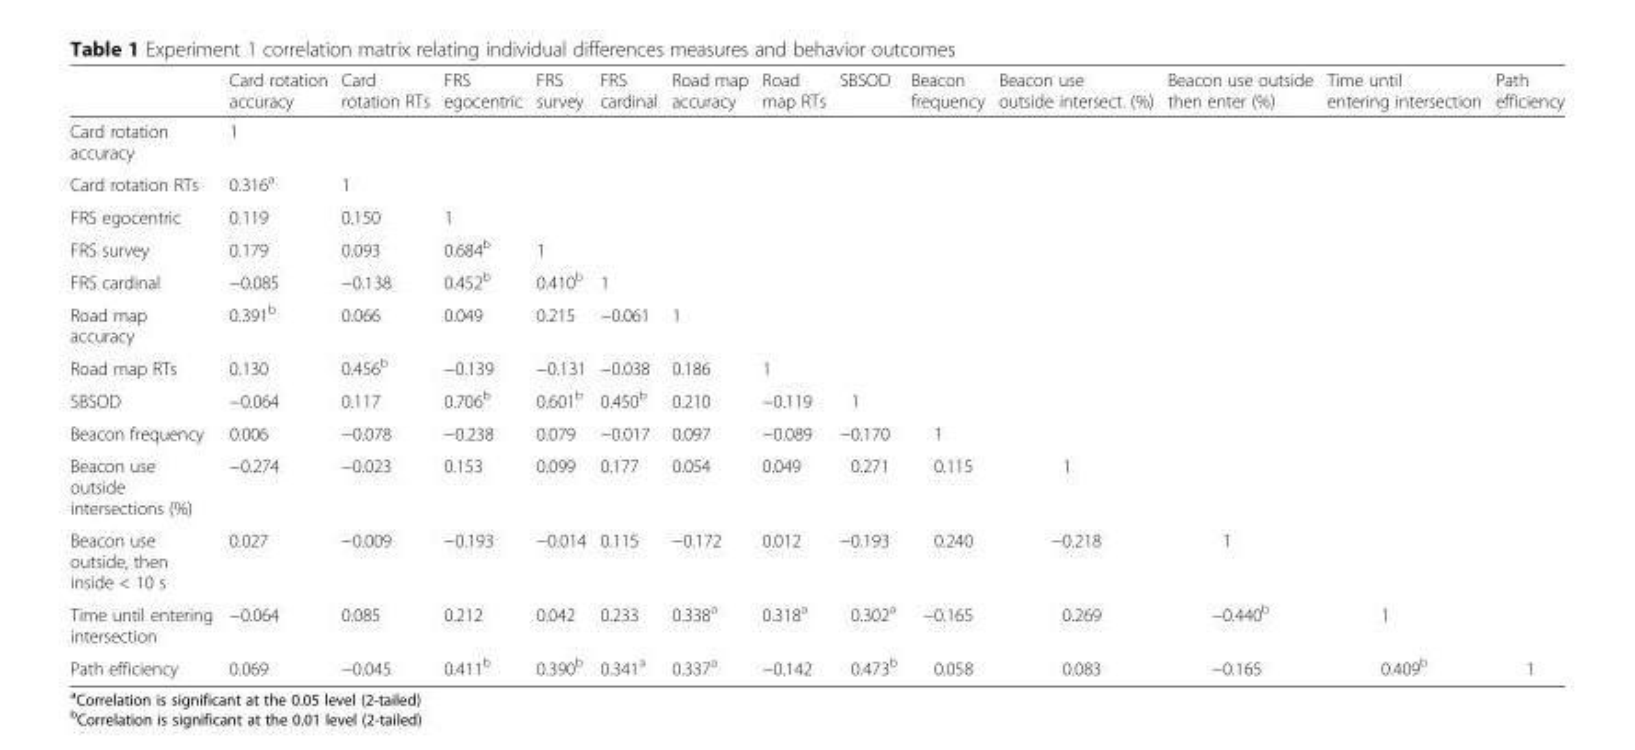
<table><thead><tr><td></td><td>Card rotation accuracy</td><td>Card rotation RTs</td><td>FRS egocentric</td><td>FRS survey</td><td>FRS cardinal</td><td>Road map accuracy</td><td>Road map RTs</td><td>SBSOD</td><td>Beacon frequency</td><td>Beacon use outside intersect. (%)</td><td>Beacon use outside then enter (%)</td><td>Time until entering intersection</td><td>Path efficiency</td></tr></thead><tbody><tr><td>Card rotation accuracy</td><td>1</td><td></td><td></td><td></td><td></td><td></td><td></td><td></td><td></td><td></td><td></td><td></td><td></td></tr><tr><td>Card rotation RTs</td><td>0.316<sup>a</sup></td><td>1</td><td></td><td></td><td></td><td></td><td></td><td></td><td></td><td></td><td></td><td></td><td></td></tr><tr><td>FRS egocentric</td><td>0.119</td><td>0.150</td><td>1</td><td></td><td></td><td></td><td></td><td></td><td></td><td></td><td></td><td></td><td></td></tr><tr><td>FRS survey</td><td>0.179</td><td>0.093</td><td>0.684<sup>b</sup></td><td>1</td><td></td><td></td><td></td><td></td><td></td><td></td><td></td><td></td><td></td></tr><tr><td>FRS cardinal</td><td>−0.085</td><td>−0.138</td><td>0.452<sup>b</sup></td><td>0.410<sup>b</sup></td><td>1</td><td></td><td></td><td></td><td></td><td></td><td></td><td></td><td></td></tr><tr><td>Road map accuracy</td><td>0.391<sup>b</sup></td><td>0.066</td><td>0.049</td><td>0.215</td><td>−0.061</td><td>1</td><td></td><td></td><td></td><td></td><td></td><td></td><td></td></tr><tr><td>Road map RTs</td><td>0.130</td><td>0.456<sup>b</sup></td><td>−0.139</td><td>−0.131</td><td>−0.038</td><td>0.186</td><td>1</td><td></td><td></td><td></td><td></td><td></td><td></td></tr><tr><td>SBSOD</td><td>−0.064</td><td>0.117</td><td>0.706<sup>b</sup></td><td>0.601<sup>b</sup></td><td>0.450<sup>b</sup></td><td>0.210</td><td>−0.119</td><td>1</td><td></td><td></td><td></td><td></td><td></td></tr><tr><td>Beacon frequency</td><td>0.006</td><td>−0.078</td><td>−0.238</td><td>0.079</td><td>−0.017</td><td>0.097</td><td>−0.089</td><td>−0.170</td><td>1</td><td></td><td></td><td></td><td></td></tr><tr><td>Beacon use outside intersections (%)</td><td>−0.274</td><td>−0.023</td><td>0.153</td><td>0.099</td><td>0.177</td><td>0.054</td><td>0.049</td><td>0.271</td><td>0.115</td><td>1</td><td></td><td></td><td></td></tr><tr><td>Beacon use outside, then inside &lt; 10 s</td><td>0.027</td><td>−0.009</td><td>−0.193</td><td>−0.014</td><td>0.115</td><td>−0.172</td><td>0.012</td><td>−0.193</td><td>0.240</td><td>−0.218</td><td>1</td><td></td><td></td></tr><tr><td>Time until entering intersection</td><td>−0.064</td><td>0.085</td><td>0.212</td><td>0.042</td><td>0.233</td><td>0.338<sup>a</sup></td><td>0.318<sup>a</sup></td><td>0.302<sup>a</sup></td><td>−0.165</td><td>0.269</td><td>−0.440<sup>b</sup></td><td>1</td><td></td></tr><tr><td>Path efficiency</td><td>0.069</td><td>−0.045</td><td>0.411<sup>b</sup></td><td>0.390<sup>b</sup></td><td>0.341<sup>a</sup></td><td>0.337<sup>a</sup></td><td>−0.142</td><td>0.473<sup>b</sup></td><td>0.058</td><td>0.083</td><td>−0.165</td><td>0.409<sup>b</sup></td><td>1</td></tr></tbody></table>